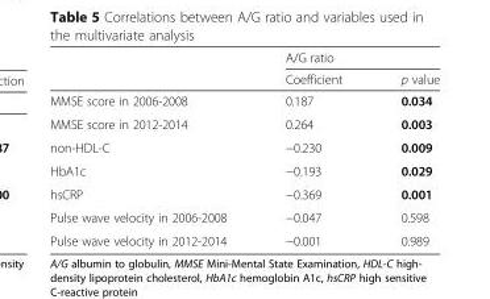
<table><thead><tr><td rowspan="2"></td><td colspan="2">A/G ratio</td></tr><tr><td>Coefficient</td><td>p value</td></tr></thead><tbody><tr><td>MMSE score in 2006-2008</td><td>0.187</td><td>0.034</td></tr><tr><td>MMSE score in 2012-2014</td><td>0.264</td><td>0.003</td></tr><tr><td>non-HDL-C</td><td>−0.230</td><td>0.009</td></tr><tr><td>HbA1c</td><td>−0.193</td><td>0.029</td></tr><tr><td>hsCRP</td><td>−0.369</td><td>0.001</td></tr><tr><td>Pulse wave velocity in 2006-2008</td><td>−0.047</td><td>0.598</td></tr><tr><td>Pulse wave velocity in 2012-2014</td><td>−0.001</td><td>0.989</td></tr></tbody></table>